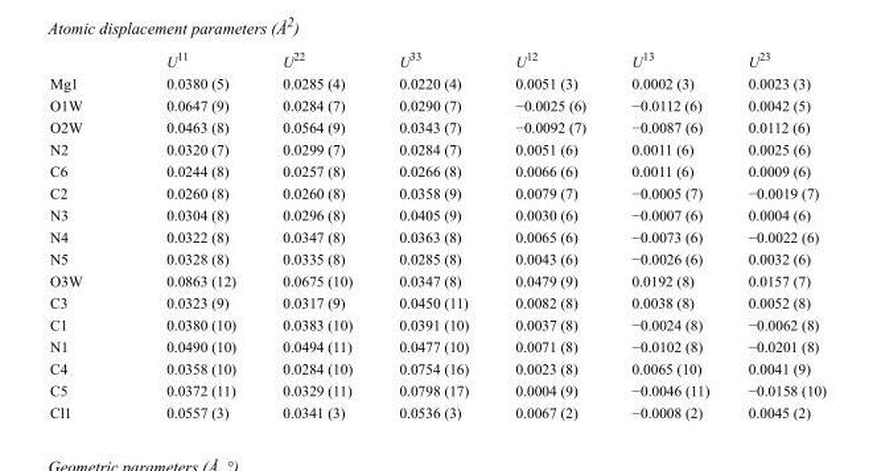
<table><thead><tr><td></td><td>U<sup>11</sup></td><td>U<sup>22</sup></td><td>U<sup>33</sup></td><td>U<sup>12</sup></td><td>U<sup>13</sup></td><td>U<sup>23</sup></td></tr></thead><tbody><tr><td>Mg1</td><td>0.0380 (5)</td><td>0.0285 (4)</td><td>0.0220 (4)</td><td>0.0051 (3)</td><td>0.0002 (3)</td><td>0.0023 (3)</td></tr><tr><td>O1W</td><td>0.0647 (9)</td><td>0.0284 (7)</td><td>0.0290 (7)</td><td>−0.0025 (6)</td><td>−0.0112 (6)</td><td>0.0042 (5)</td></tr><tr><td>O2W</td><td>0.0463 (8)</td><td>0.0564 (9)</td><td>0.0343 (7)</td><td>−0.0092 (7)</td><td>−0.0087 (6)</td><td>0.0112 (6)</td></tr><tr><td>N2</td><td>0.0320 (7)</td><td>0.0299 (7)</td><td>0.0284 (7)</td><td>0.0051 (6)</td><td>0.0011 (6)</td><td>0.0025 (6)</td></tr><tr><td>C6</td><td>0.0244 (8)</td><td>0.0257 (8)</td><td>0.0266 (8)</td><td>0.0066 (6)</td><td>0.0011 (6)</td><td>0.0009 (6)</td></tr><tr><td>C2</td><td>0.0260 (8)</td><td>0.0260 (8)</td><td>0.0358 (9)</td><td>0.0079 (7)</td><td>−0.0005 (7)</td><td>−0.0019 (7)</td></tr><tr><td>N3</td><td>0.0304 (8)</td><td>0.0296 (8)</td><td>0.0405 (9)</td><td>0.0030 (6)</td><td>−0.0007 (6)</td><td>0.0004 (6)</td></tr><tr><td>N4</td><td>0.0322 (8)</td><td>0.0347 (8)</td><td>0.0363 (8)</td><td>0.0065 (6)</td><td>−0.0073 (6)</td><td>−0.0022 (6)</td></tr><tr><td>N5</td><td>0.0328 (8)</td><td>0.0335 (8)</td><td>0.0285 (8)</td><td>0.0043 (6)</td><td>−0.0026 (6)</td><td>0.0032 (6)</td></tr><tr><td>O3W</td><td>0.0863 (12)</td><td>0.0675 (10)</td><td>0.0347 (8)</td><td>0.0479 (9)</td><td>0.0192 (8)</td><td>0.0157 (7)</td></tr><tr><td>C3</td><td>0.0323 (9)</td><td>0.0317 (9)</td><td>0.0450 (11)</td><td>0.0082 (8)</td><td>0.0038 (8)</td><td>0.0052 (8)</td></tr><tr><td>C1</td><td>0.0380 (10)</td><td>0.0383 (10)</td><td>0.0391 (10)</td><td>0.0037 (8)</td><td>−0.0024 (8)</td><td>−0.0062 (8)</td></tr><tr><td>N1</td><td>0.0490 (10)</td><td>0.0494 (11)</td><td>0.0477 (10)</td><td>0.0071 (8)</td><td>−0.0102 (8)</td><td>−0.0201 (8)</td></tr><tr><td>C4</td><td>0.0358 (10)</td><td>0.0284 (10)</td><td>0.0754 (16)</td><td>0.0023 (8)</td><td>0.0065 (10)</td><td>0.0041 (9)</td></tr><tr><td>C5</td><td>0.0372 (11)</td><td>0.0329 (11)</td><td>0.0798 (17)</td><td>0.0004 (9)</td><td>−0.0046 (11)</td><td>−0.0158 (10)</td></tr><tr><td>Cl1</td><td>0.0557 (3)</td><td>0.0341 (3)</td><td>0.0536 (3)</td><td>0.0067 (2)</td><td>−0.0008 (2)</td><td>0.0045 (2)</td></tr></tbody></table>